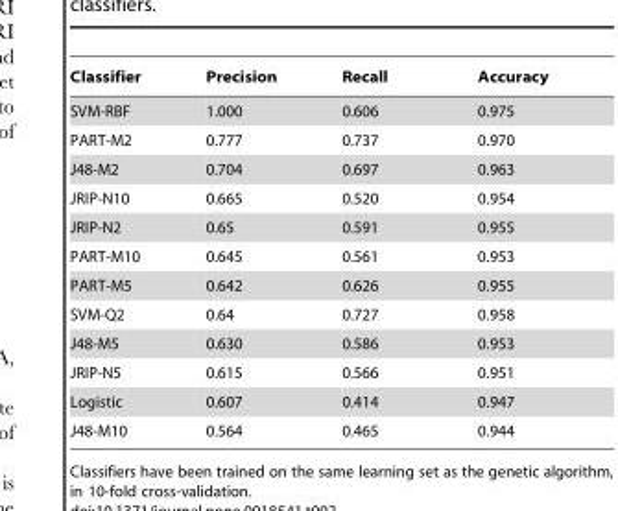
<table><thead><tr><td>Classifier</td><td>Precision</td><td>Recall</td><td>Accuracy</td></tr></thead><tbody><tr><td>SVM-RBF</td><td>1.000</td><td>0.606</td><td>0.975</td></tr><tr><td>PART-M2</td><td>0.777</td><td>0.737</td><td>0.970</td></tr><tr><td>J48-M2</td><td>0.704</td><td>0.697</td><td>0.963</td></tr><tr><td>JRIP-N10</td><td>0.665</td><td>0.520</td><td>0.954</td></tr><tr><td>JRIP-N2</td><td>0.65</td><td>0.591</td><td>0.955</td></tr><tr><td>PART-M10</td><td>0.645</td><td>0.561</td><td>0.953</td></tr><tr><td>PART-M5</td><td>0.642</td><td>0.626</td><td>0.955</td></tr><tr><td>SVM-Q2</td><td>0.64</td><td>0.727</td><td>0.958</td></tr><tr><td>J48-M5</td><td>0.630</td><td>0.586</td><td>0.953</td></tr><tr><td>JRIP-N5</td><td>0.615</td><td>0.566</td><td>0.951</td></tr><tr><td>Logistic</td><td>0.607</td><td>0.414</td><td>0.947</td></tr><tr><td>J48-M10</td><td>0.564</td><td>0.465</td><td>0.944</td></tr></tbody></table>